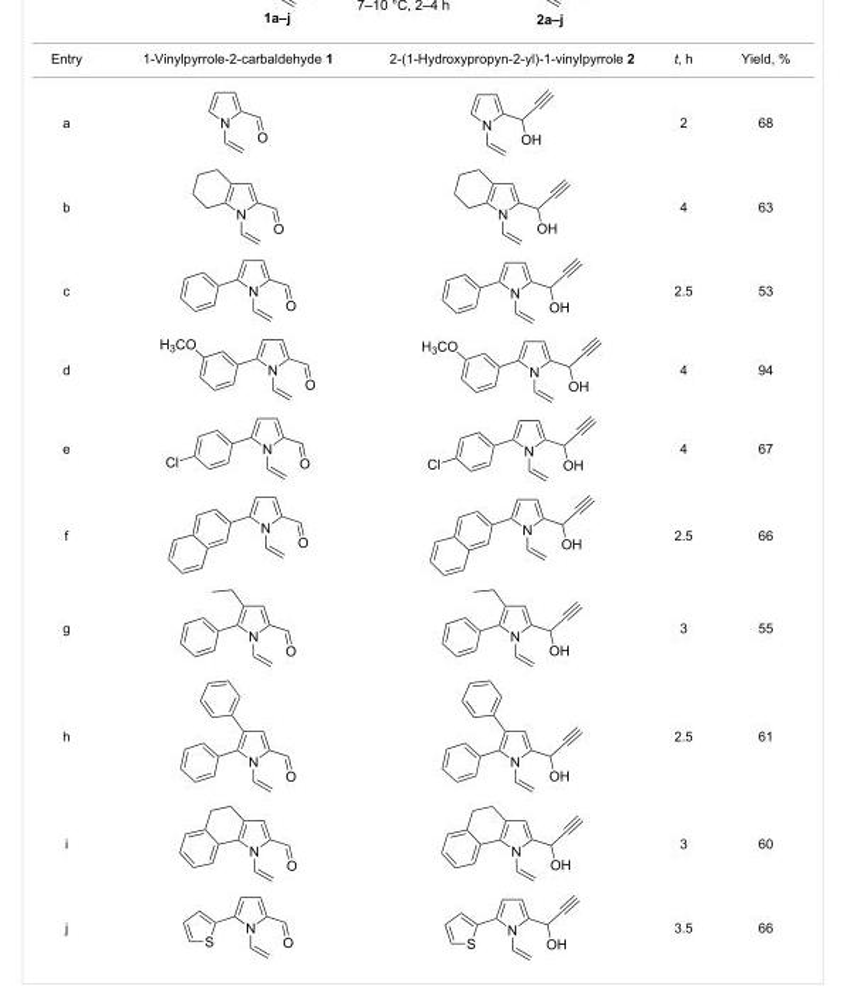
<table><tbody><tr><td>Entry</td><td>1-Vinylpyrrole-2-carbaldehyde 1</td><td>2-(1-Hydroxypropyn-2-yl)-1-vinylpyrrole 2</td><td>t, h</td><td>Yield, %</td></tr><tr><td>a</td><td></td><td></td><td>2</td><td>68</td></tr><tr><td>b</td><td></td><td></td><td>4</td><td>63</td></tr><tr><td>c</td><td></td><td></td><td>2.5</td><td>53</td></tr><tr><td>d</td><td></td><td></td><td>4</td><td>94</td></tr><tr><td>e</td><td></td><td></td><td>4</td><td>67</td></tr><tr><td>f</td><td></td><td></td><td>2.5</td><td>66</td></tr><tr><td>g</td><td></td><td></td><td>3</td><td>55</td></tr><tr><td>h</td><td></td><td></td><td>2.5</td><td>61</td></tr><tr><td>i</td><td></td><td></td><td>3</td><td>60</td></tr><tr><td>j</td><td></td><td></td><td>3.5</td><td>66</td></tr></tbody></table>